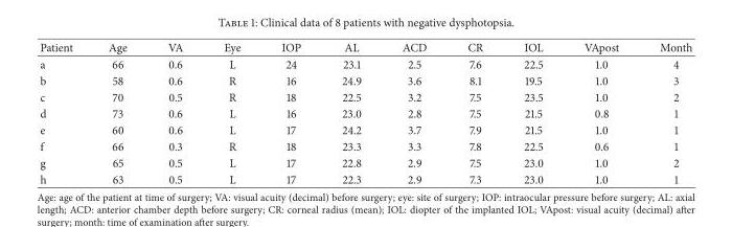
<table><thead><tr><td>Patient</td><td>Age</td><td>VA</td><td>Eye</td><td>IOP</td><td>AL</td><td>ACD</td><td>CR</td><td>IOL</td><td>VApost</td><td>Month</td></tr></thead><tbody><tr><td>a</td><td>66</td><td>0.6</td><td>L</td><td>24</td><td>23.1</td><td>2.5</td><td>7.6</td><td>22.5</td><td>1.0</td><td>4</td></tr><tr><td>b</td><td>58</td><td>0.6</td><td>R</td><td>16</td><td>24.9</td><td>3.6</td><td>8.1</td><td>19.5</td><td>1.0</td><td>3</td></tr><tr><td>c</td><td>70</td><td>0.5</td><td>R</td><td>18</td><td>22.5</td><td>3.2</td><td>7.5</td><td>23.5</td><td>1.0</td><td>2</td></tr><tr><td>d</td><td>73</td><td>0.6</td><td>L</td><td>16</td><td>23.0</td><td>2.8</td><td>7.5</td><td>21.5</td><td>0.8</td><td>1</td></tr><tr><td>e</td><td>60</td><td>0.6</td><td>L</td><td>17</td><td>24.2</td><td>3.7</td><td>7.9</td><td>21.5</td><td>1.0</td><td>1</td></tr><tr><td>f</td><td>66</td><td>0.3</td><td>R</td><td>18</td><td>23.3</td><td>3.3</td><td>7.8</td><td>22.5</td><td>0.6</td><td>1</td></tr><tr><td>g</td><td>65</td><td>0.5</td><td>L</td><td>17</td><td>22.8</td><td>2.9</td><td>7.5</td><td>23.0</td><td>1.0</td><td>2</td></tr><tr><td>h</td><td>63</td><td>0.5</td><td>L</td><td>17</td><td>22.3</td><td>2.9</td><td>7.3</td><td>23.0</td><td>1.0</td><td>1</td></tr></tbody></table>